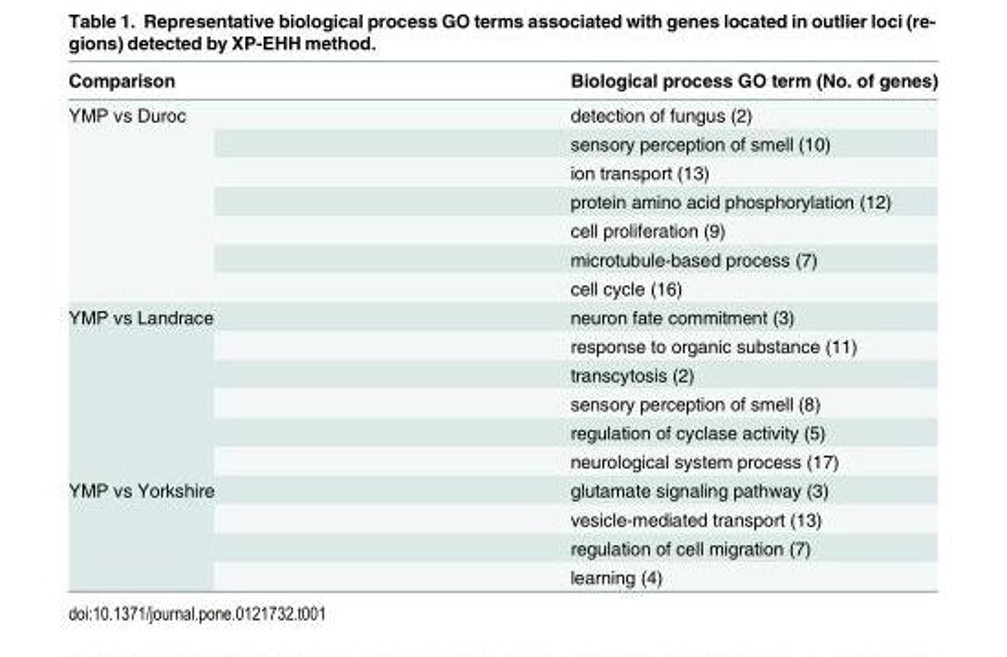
<table><thead><tr><td>Comparison</td><td>Biological process GO term (No. of genes)</td></tr></thead><tbody><tr><td rowspan="7">YMP vs Duroc</td><td>detection of fungus (2)</td></tr><tr><td>sensory perception of smell (10)</td></tr><tr><td>ion transport (13)</td></tr><tr><td>protein amino acid phosphorylation (12)</td></tr><tr><td>cell proliferation (9)</td></tr><tr><td>microtubule-based process (7)</td></tr><tr><td>cell cycle (16)</td></tr><tr><td rowspan="6">YMP vs Landrace</td><td>neuron fate commitment (3)</td></tr><tr><td>response to organic substance (11)</td></tr><tr><td>transcytosis (2)</td></tr><tr><td>sensory perception of smell (8)</td></tr><tr><td>regulation of cyclase activity (5)</td></tr><tr><td>neurological system process (17)</td></tr><tr><td rowspan="4">YMP vs Yorkshire</td><td>glutamate signaling pathway (3)</td></tr><tr><td>vesicle-mediated transport (13)</td></tr><tr><td>regulation of cell migration (7)</td></tr><tr><td>learning (4)</td></tr></tbody></table>